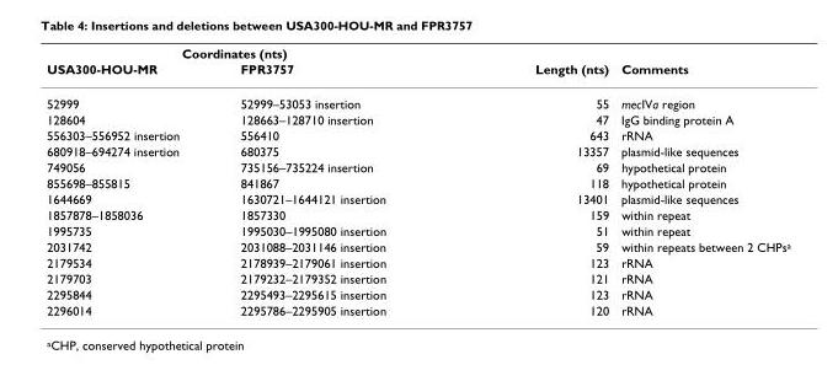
<table><thead><tr><td colspan="2">Coordinates (nts)</td><td rowspan="2">Length (nts)</td><td rowspan="2">Comments</td></tr><tr><td>USA300-HOU-MR</td><td>FPR3757</td></tr></thead><tbody><tr><td>52999</td><td>52999–53053 insertion</td><td>55</td><td>mecIVa region</td></tr><tr><td>128604</td><td>128663–128710 insertion</td><td>47</td><td>IgG binding protein A</td></tr><tr><td>556303–556952 insertion</td><td>556410</td><td>643</td><td>rRNA</td></tr><tr><td>680918–694274 insertion</td><td>680375</td><td>13357</td><td>plasmid-like sequences</td></tr><tr><td>749056</td><td>735156–735224 insertion</td><td>69</td><td>hypothetical protein</td></tr><tr><td>855698–855815</td><td>841867</td><td>118</td><td>hypothetical protein</td></tr><tr><td>1644669</td><td>1630721–1644121 insertion</td><td>13401</td><td>plasmid-like sequences</td></tr><tr><td>1857878–1858036</td><td>1857330</td><td>159</td><td>within repeat</td></tr><tr><td>1995735</td><td>1995030–1995080 insertion</td><td>51</td><td>within repeat</td></tr><tr><td>2031742</td><td>2031088–2031146 insertion</td><td>59</td><td>within repeats between 2 CHPs<sup>a</sup></td></tr><tr><td>2179534</td><td>2178939–2179061 insertion</td><td>123</td><td>rRNA</td></tr><tr><td>2179703</td><td>2179232–2179352 insertion</td><td>121</td><td>rRNA</td></tr><tr><td>2295844</td><td>2295493–2295615 insertion</td><td>123</td><td>rRNA</td></tr><tr><td>2296014</td><td>2295786–2295905 insertion</td><td>120</td><td>rRNA</td></tr></tbody></table>